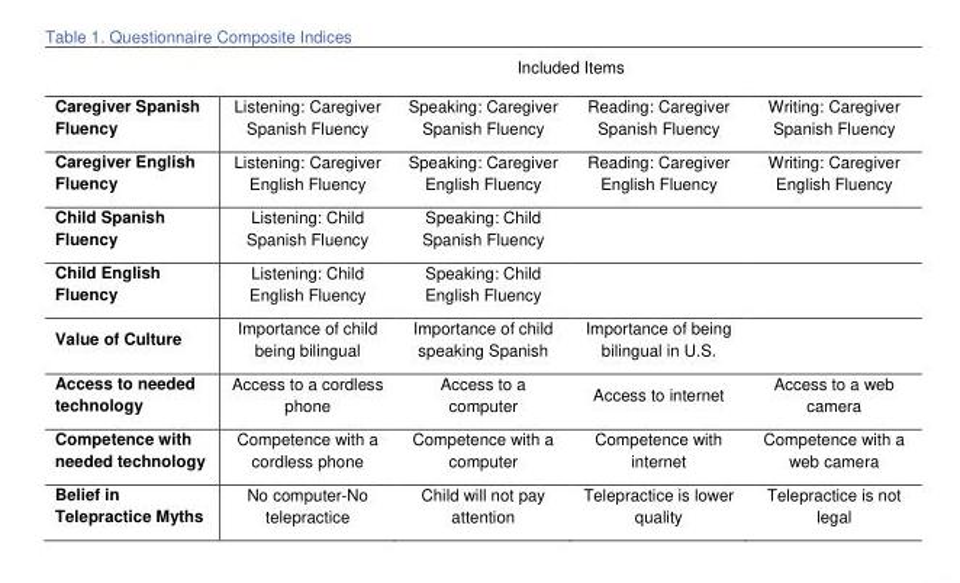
<table><thead><tr><td rowspan="2">Caregiver Spanish Fluency</td><td colspan="4">Included Items</td></tr><tr><td>Listening: Caregiver Spanish Fluency</td><td>Speaking: Caregiver Spanish Fluency</td><td>Reading: Caregiver Spanish Fluency</td><td>Writing: Caregiver Spanish Fluency</td></tr></thead><tbody><tr><td>Caregiver English Fluency</td><td>Listening: Caregiver English Fluency</td><td>Speaking: Caregiver English Fluency</td><td>Reading: Caregiver English Fluency</td><td>Writing: Caregiver English Fluency</td></tr><tr><td>Child Spanish Fluency</td><td>Listening: Child Spanish Fluency</td><td>Speaking: Child Spanish Fluency</td><td></td><td></td></tr><tr><td>Child English Fluency</td><td>Listening: Child English Fluency</td><td>Speaking: Child English Fluency</td><td></td><td></td></tr><tr><td>Value of Culture</td><td>Importance of child being bilingual</td><td>Importance of child speaking Spanish</td><td>Importance of being bilingual in U.S.</td><td></td></tr><tr><td>Access to needed technology</td><td>Access to a cordless phone</td><td>Access to a computer</td><td>Access to internet</td><td>Access to a web camera</td></tr><tr><td>Competence with needed technology</td><td>Competence with a cordless phone</td><td>Competence with a computer</td><td>Competence with internet</td><td>Competence with a web camera</td></tr><tr><td>Belief in Telepractice Myths</td><td>No computer-No telepractice</td><td>Child will not pay attention</td><td>Telepractice is lower quality</td><td>Telepractice is not legal</td></tr></tbody></table>